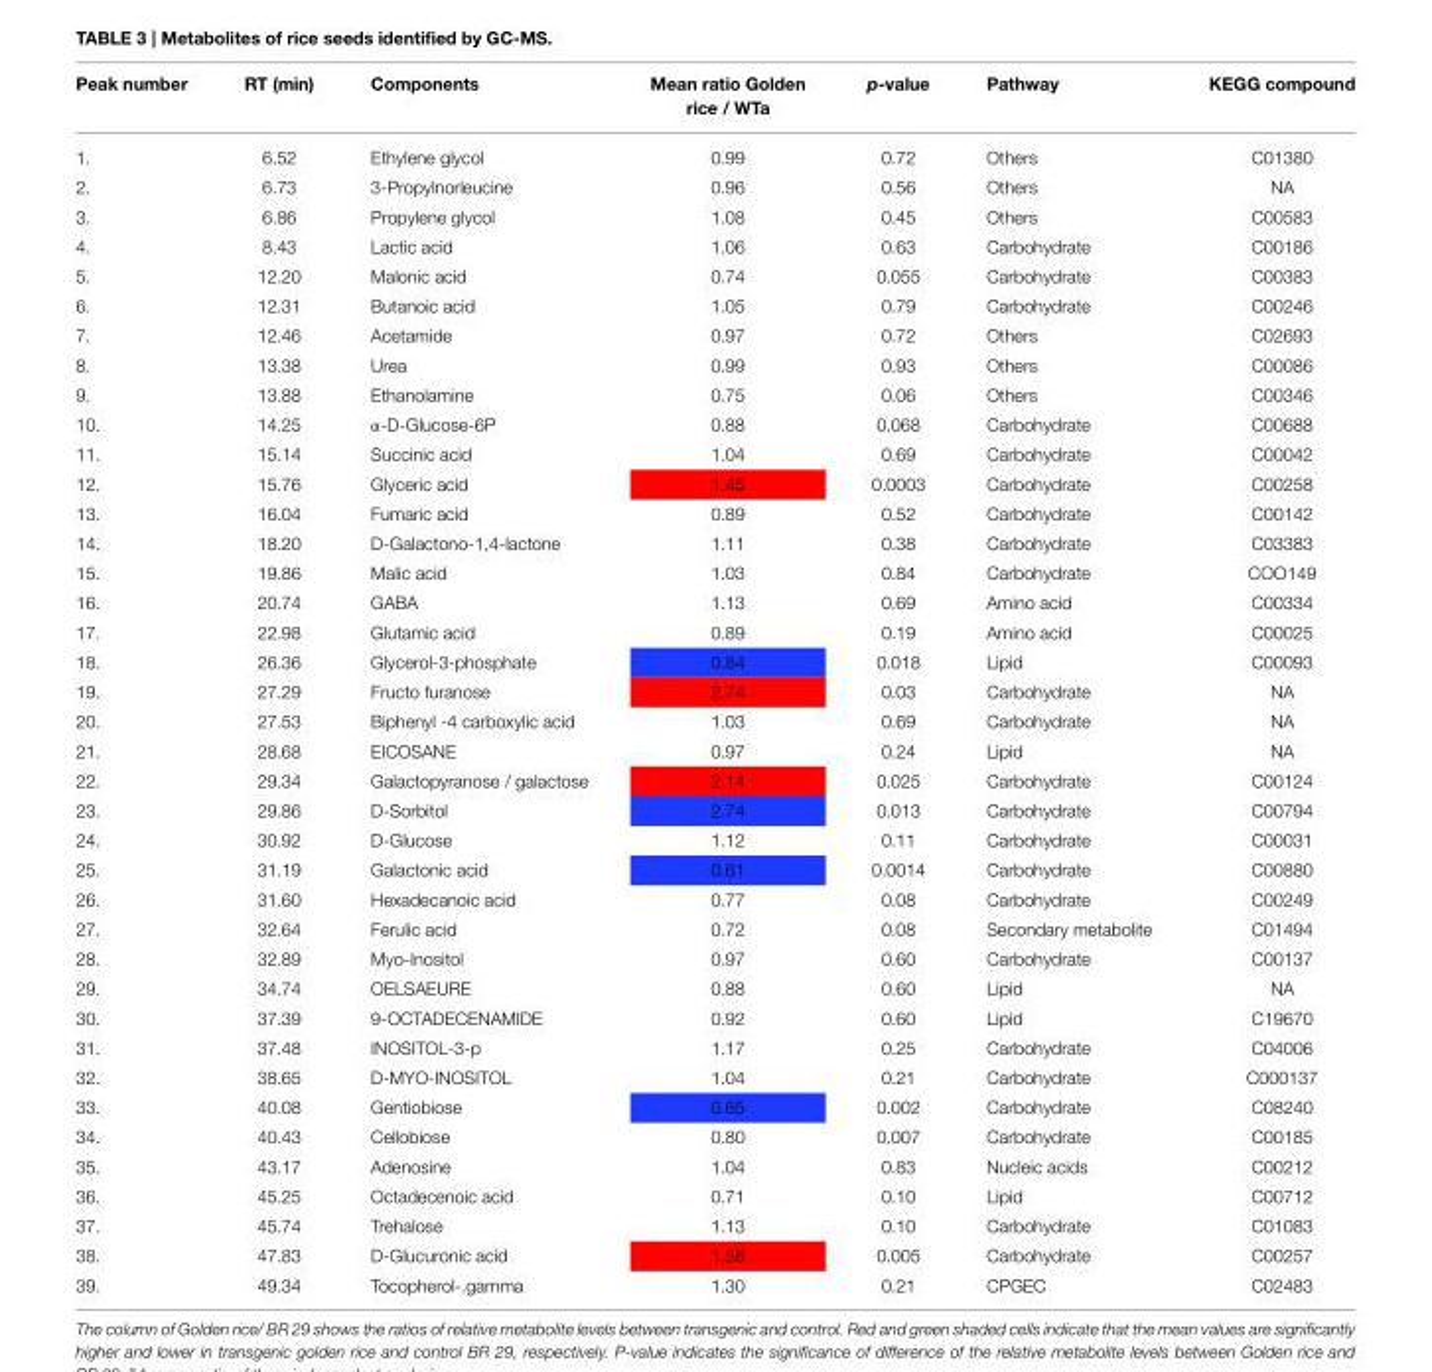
<table><thead><tr><td>Peak number</td><td>RT (min)</td><td>Components</td><td>Mean ratio Golden rice / WTa</td><td>p-value</td><td>Pathway</td><td>KEGG compound</td></tr></thead><tbody><tr><td>1.</td><td>6.52</td><td>Ethylene glycol</td><td>0.99</td><td>0.72</td><td>Others</td><td>C01380</td></tr><tr><td>2.</td><td>6.73</td><td>3-Propylnorleucine</td><td>0.96</td><td>0.56</td><td>Others</td><td>NA</td></tr><tr><td>3.</td><td>6.86</td><td>Propylene glycol</td><td>1.08</td><td>0.45</td><td>Others</td><td>C00583</td></tr><tr><td>4.</td><td>8.43</td><td>Lactic acid</td><td>1.06</td><td>0.63</td><td>Carbohydrate</td><td>C00186</td></tr><tr><td>5.</td><td>12.20</td><td>Malonic acid</td><td>0.74</td><td>0.055</td><td>Carbohydrate</td><td>C00383</td></tr><tr><td>6.</td><td>12.31</td><td>Butanoic acid</td><td>1.05</td><td>0.79</td><td>Carbohydrate</td><td>C00246</td></tr><tr><td>7.</td><td>12.46</td><td>Acetamide</td><td>0.97</td><td>0.72</td><td>Others</td><td>C02693</td></tr><tr><td>8.</td><td>13.38</td><td>Urea</td><td>0.99</td><td>0.93</td><td>Others</td><td>C00086</td></tr><tr><td>9.</td><td>13.88</td><td>Ethanolamine</td><td>0.75</td><td>0.06</td><td>Others</td><td>C00346</td></tr><tr><td>10.</td><td>14.25</td><td>α-D-Glucose-6P</td><td>0.88</td><td>0.068</td><td>Carbohydrate</td><td>C00688</td></tr><tr><td>11.</td><td>15.14</td><td>Succinic acid</td><td>1.04</td><td>0.69</td><td>Carbohydrate</td><td>C00042</td></tr><tr><td>12.</td><td>15.76</td><td>Glyceric acid</td><td>1.45</td><td>0.0003</td><td>Carbohydrate</td><td>C00258</td></tr><tr><td>13.</td><td>16.04</td><td>Fumaric acid</td><td>0.89</td><td>0.52</td><td>Carbohydrate</td><td>C00142</td></tr><tr><td>14.</td><td>18.20</td><td>D-Galactono-1,4-lactone</td><td>1.11</td><td>0.38</td><td>Carbohydrate</td><td>C03383</td></tr><tr><td>15.</td><td>19.86</td><td>Malic acid</td><td>1.03</td><td>0.84</td><td>Carbohydrate</td><td>COO149</td></tr><tr><td>16.</td><td>20.74</td><td>GABA</td><td>1.13</td><td>0.69</td><td>Amino acid</td><td>C00334</td></tr><tr><td>17.</td><td>22.98</td><td>Glutamic acid</td><td>0.89</td><td>0.19</td><td>Amino acid</td><td>C00025</td></tr><tr><td>18.</td><td>26.36</td><td>Glycerol-3-phosphate</td><td>0.84</td><td>0.018</td><td>Lipid</td><td>C00093</td></tr><tr><td>19.</td><td>27.29</td><td>Fructo furanose</td><td>2.74</td><td>0.03</td><td>Carbohydrate</td><td>NA</td></tr><tr><td>20.</td><td>27.53</td><td>Biphenyl -4 carboxylic acid</td><td>1.03</td><td>0.69</td><td>Carbohydrate</td><td>NA</td></tr><tr><td>21.</td><td>28.68</td><td>EICOSANE</td><td>0.97</td><td>0.24</td><td>Lipid</td><td>NA</td></tr><tr><td>22.</td><td>29.34</td><td>Galactopyranose / galactose</td><td>2.14</td><td>0.025</td><td>Carbohydrate</td><td>C00124</td></tr><tr><td>23.</td><td>29.86</td><td>D-Sorbitol</td><td>2.74</td><td>0.013</td><td>Carbohydrate</td><td>C00794</td></tr><tr><td>24.</td><td>30.92</td><td>D-Glucose</td><td>1.12</td><td>0.11</td><td>Carbohydrate</td><td>C00031</td></tr><tr><td>25.</td><td>31.19</td><td>Galactonic acid</td><td>0.61</td><td>0.0014</td><td>Carbohydrate</td><td>C00880</td></tr><tr><td>26.</td><td>31.60</td><td>Hexadecanoic acid</td><td>0.77</td><td>0.08</td><td>Carbohydrate</td><td>C00249</td></tr><tr><td>27.</td><td>32.64</td><td>Ferulic acid</td><td>0.72</td><td>0.08</td><td>Secondary metabolite</td><td>C01494</td></tr><tr><td>28.</td><td>32.89</td><td>Myo-Inositol</td><td>0.97</td><td>0.60</td><td>Carbohydrate</td><td>C00137</td></tr><tr><td>29.</td><td>34.74</td><td>OELSAEURE</td><td>0.88</td><td>0.60</td><td>Lipid</td><td>NA</td></tr><tr><td>30.</td><td>37.39</td><td>9-OCTADECENAMIDE</td><td>0.92</td><td>0.60</td><td>Lipid</td><td>C19670</td></tr><tr><td>31.</td><td>37.48</td><td>INOSITOL-3-p</td><td>1.17</td><td>0.25</td><td>Carbohydrate</td><td>C04006</td></tr><tr><td>32.</td><td>38.65</td><td>D-MYO-INOSITOL</td><td>1.04</td><td>0.21</td><td>Carbohydrate</td><td>C000137</td></tr><tr><td>33.</td><td>40.08</td><td>Gentiobiose</td><td>0.65</td><td>0.002</td><td>Carbohydrate</td><td>C08240</td></tr><tr><td>34.</td><td>40.43</td><td>Cellobiose</td><td>0.80</td><td>0.007</td><td>Carbohydrate</td><td>C00185</td></tr><tr><td>35.</td><td>43.17</td><td>Adenosine</td><td>1.04</td><td>0.83</td><td>Nucleic acids</td><td>C00212</td></tr><tr><td>36.</td><td>45.25</td><td>Octadecenoic acid</td><td>0.71</td><td>0.10</td><td>Lipid</td><td>C00712</td></tr><tr><td>37.</td><td>45.74</td><td>Trehalose</td><td>1.13</td><td>0.10</td><td>Carbohydrate</td><td>C01083</td></tr><tr><td>38.</td><td>47.83</td><td>D-Glucuronic acid</td><td>1.58</td><td>0.005</td><td>Carbohydrate</td><td>C00257</td></tr><tr><td>39.</td><td>49.34</td><td>Tocopherol-.gamma</td><td>1.30</td><td>0.21</td><td>CPGEC</td><td>C02483</td></tr></tbody></table>